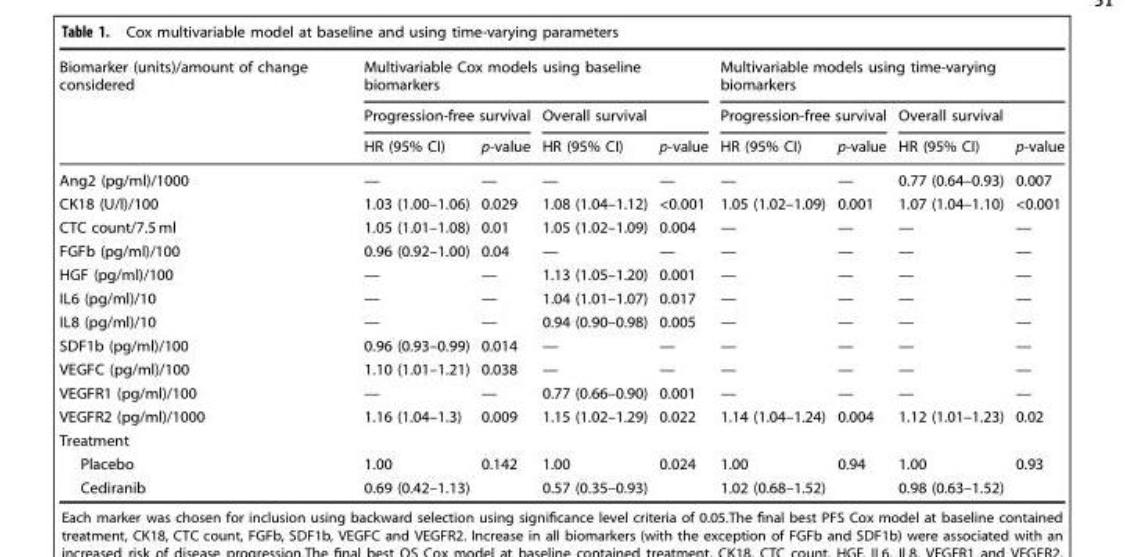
<table><thead><tr><td rowspan="3">Biomarker (units)/amount of change considered</td><td colspan="4">Multivariable Cox models using baseline biomarkers</td><td colspan="4">Multivariable models using time-varying biomarkers</td></tr><tr><td colspan="2">Progression-free survival</td><td colspan="2">Overall survival</td><td colspan="2">Progression-free survival</td><td colspan="2">Overall survival</td></tr><tr><td>HR (95% CI)</td><td>p-value</td><td>HR (95% CI)</td><td>p-value</td><td>HR (95% CI)</td><td>p-value</td><td>HR (95% CI)</td><td>p-value</td></tr></thead><tbody><tr><td>Ang2 (pg/ml)/1000</td><td>—</td><td>—</td><td>—</td><td>—</td><td>—</td><td>—</td><td>0.77 (0.64–0.93)</td><td>0.007</td></tr><tr><td>CK18 (U/l)/100</td><td>1.03 (1.00–1.06)</td><td>0.029</td><td>1.08 (1.04–1.12)</td><td>&lt;0.001</td><td>1.05 (1.02–1.09)</td><td>0.001</td><td>1.07 (1.04–1.10)</td><td>&lt;0.001</td></tr><tr><td>CTC count/7.5 ml</td><td>1.05 (1.01–1.08)</td><td>0.01</td><td>1.05 (1.02–1.09)</td><td>0.004</td><td>—</td><td>—</td><td>—</td><td>—</td></tr><tr><td>FGFb (pg/ml)/100</td><td>0.96 (0.92–1.00)</td><td>0.04</td><td>—</td><td>—</td><td>—</td><td>—</td><td>—</td><td>—</td></tr><tr><td>HGF (pg/ml)/100</td><td>—</td><td>—</td><td>1.13 (1.05–1.20)</td><td>0.001</td><td>—</td><td>—</td><td>—</td><td>—</td></tr><tr><td>IL6 (pg/ml)/10</td><td>—</td><td>—</td><td>1.04 (1.01–1.07)</td><td>0.017</td><td>—</td><td>—</td><td>—</td><td>—</td></tr><tr><td>IL8 (pg/ml)/10</td><td>—</td><td>—</td><td>0.94 (0.90–0.98)</td><td>0.005</td><td>—</td><td>—</td><td>—</td><td>—</td></tr><tr><td>SDF1b (pg/ml)/100</td><td>0.96 (0.93–0.99)</td><td>0.014</td><td>—</td><td>—</td><td>—</td><td>—</td><td>—</td><td>—</td></tr><tr><td>VEGFC (pg/ml)/100</td><td>1.10 (1.01–1.21)</td><td>0.038</td><td>—</td><td>—</td><td>—</td><td>—</td><td>—</td><td>—</td></tr><tr><td>VEGFR1 (pg/ml)/100</td><td>—</td><td>—</td><td>0.77 (0.66–0.90)</td><td>0.001</td><td>—</td><td>—</td><td>—</td><td>—</td></tr><tr><td>VEGFR2 (pg/ml)/1000</td><td>1.16 (1.04–1.3)</td><td>0.009</td><td>1.15 (1.02–1.29)</td><td>0.022</td><td>1.14 (1.04–1.24)</td><td>0.004</td><td>1.12 (1.01–1.23)</td><td>0.02</td></tr><tr><td colspan="9">Treatment</td></tr><tr><td>Placebo</td><td>1.00</td><td rowspan="2">0.142</td><td>1.00</td><td rowspan="2">0.024</td><td>1.00</td><td rowspan="2">0.94</td><td>1.00</td><td rowspan="2">0.93</td></tr><tr><td>Cediranib</td><td>0.69 (0.42–1.13)</td><td>0.57 (0.35–0.93)</td><td>1.02 (0.68–1.52)</td><td>0.98 (0.63–1.52)</td></tr></tbody></table>